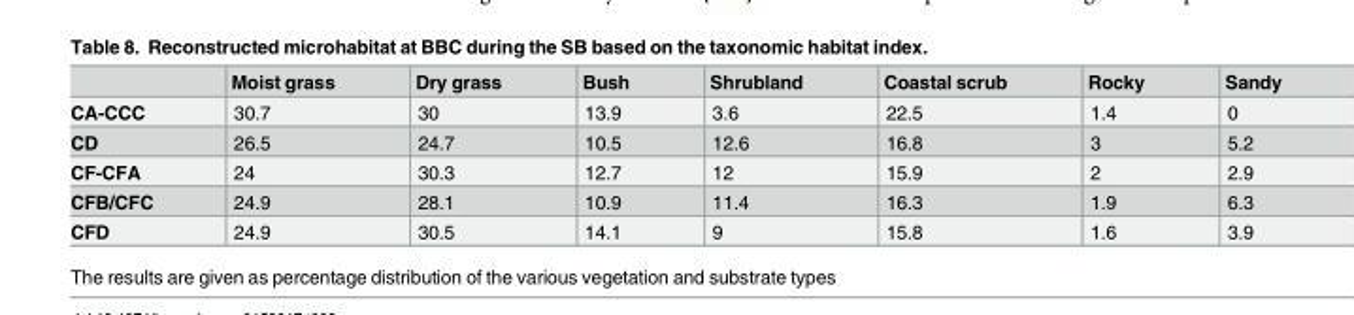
<table><thead><tr><td></td><td>Moist grass</td><td>Dry grass</td><td>Bush</td><td>Shrubland</td><td>Coastal scrub</td><td>Rocky</td><td>Sandy</td></tr></thead><tbody><tr><td>CA-CCC</td><td>30.7</td><td>30</td><td>13.9</td><td>3.6</td><td>22.5</td><td>1.4</td><td>0</td></tr><tr><td>CD</td><td>26.5</td><td>24.7</td><td>10.5</td><td>12.6</td><td>16.8</td><td>3</td><td>5.2</td></tr><tr><td>CF-CFA</td><td>24</td><td>30.3</td><td>12.7</td><td>12</td><td>15.9</td><td>2</td><td>2.9</td></tr><tr><td>CFB/CFC</td><td>24.9</td><td>28.1</td><td>10.9</td><td>11.4</td><td>16.3</td><td>1.9</td><td>6.3</td></tr><tr><td>CFD</td><td>24.9</td><td>30.5</td><td>14.1</td><td>9</td><td>15.8</td><td>1.6</td><td>3.9</td></tr></tbody></table>